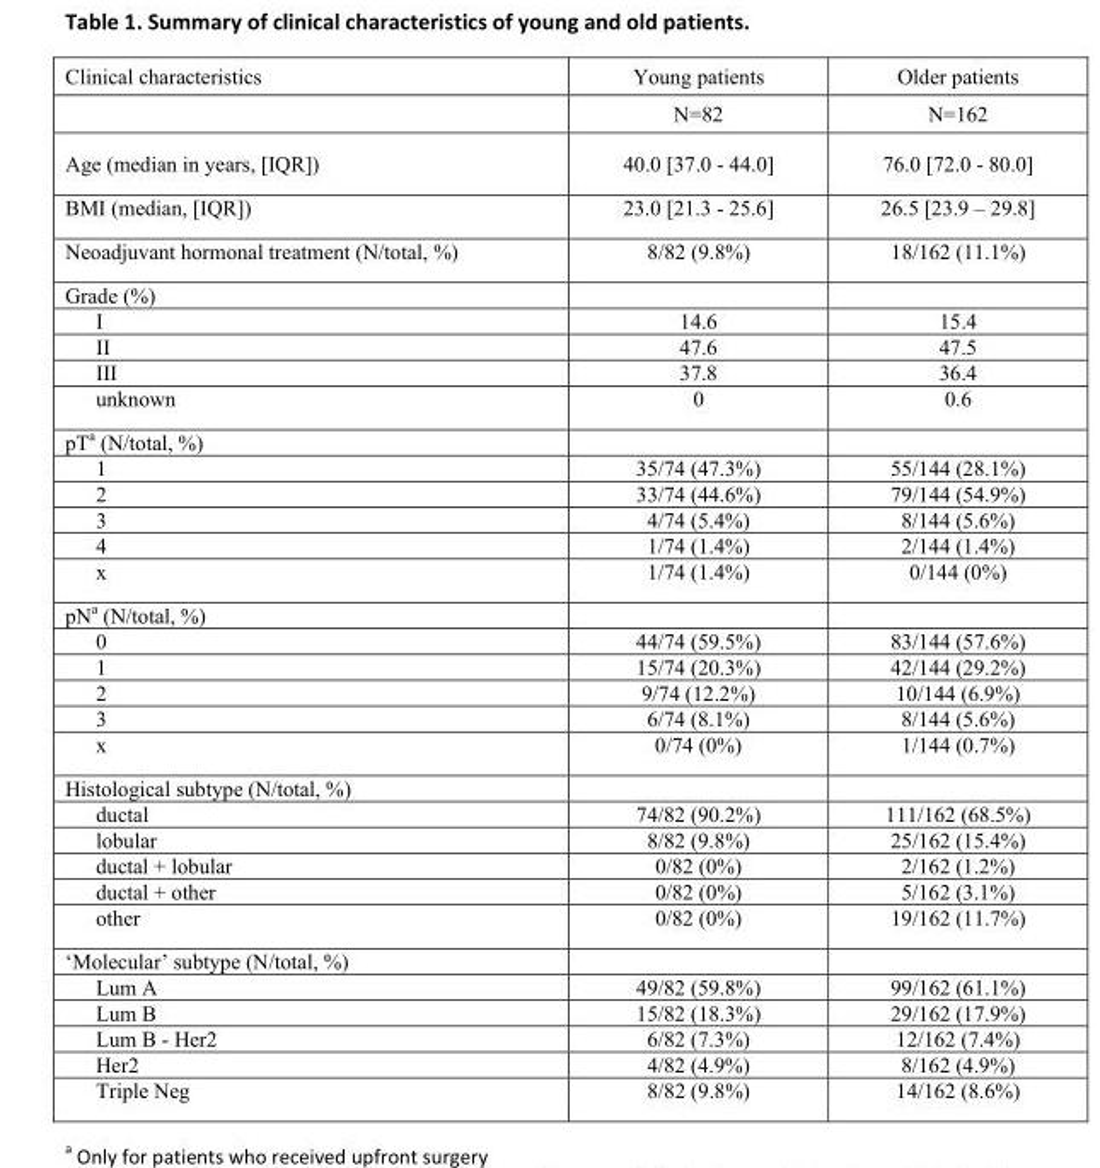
<table><thead><tr><td>Clinical characteristics</td><td>Young patients</td><td>Older patients</td></tr></thead><tbody><tr><td></td><td>N=82</td><td>N=162</td></tr><tr><td>Age (median in years, [IQR])</td><td>40.0 [37.0 - 44.0]</td><td>76.0 [72.0 - 80.0]</td></tr><tr><td>BMI (median, [IQR])</td><td>23.0 [21.3 - 25.6]</td><td>26.5 [23.9 – 29.8]</td></tr><tr><td>Neoadjuvant hormonal treatment (N/total, %)</td><td>8/82 (9.8%)</td><td>18/162 (11.1%)</td></tr><tr><td colspan="3">Grade (%)</td></tr><tr><td>I</td><td>14.6</td><td>15.4</td></tr><tr><td>II</td><td>47.6</td><td>47.5</td></tr><tr><td>III</td><td>37.8</td><td>36.4</td></tr><tr><td>unknown</td><td>0</td><td>0.6</td></tr><tr><td colspan="3">pT<sup>a</sup> (N/total, %)</td></tr><tr><td>1</td><td>35/74 (47.3%)</td><td>55/144 (28.1%)</td></tr><tr><td>2</td><td>33/74 (44.6%)</td><td>79/144 (54.9%)</td></tr><tr><td>3</td><td>4/74 (5.4%)</td><td>8/144 (5.6%)</td></tr><tr><td>4</td><td>1/74 (1.4%)</td><td>2/144 (1.4%)</td></tr><tr><td>x</td><td>1/74 (1.4%)</td><td>0/144 (0%)</td></tr><tr><td colspan="3">pN<sup>a</sup> (N/total, %)</td></tr><tr><td>0</td><td>44/74 (59.5%)</td><td>83/144 (57.6%)</td></tr><tr><td>1</td><td>15/74 (20.3%)</td><td>42/144 (29.2%)</td></tr><tr><td>2</td><td>9/74 (12.2%)</td><td>10/144 (6.9%)</td></tr><tr><td>3</td><td>6/74 (8.1%)</td><td>8/144 (5.6%)</td></tr><tr><td>x</td><td>0/74 (0%)</td><td>1/144 (0.7%)</td></tr><tr><td colspan="3">Histological subtype (N/total, %)</td></tr><tr><td>ductal</td><td>74/82 (90.2%)</td><td>111/162 (68.5%)</td></tr><tr><td>lobular</td><td>8/82 (9.8%)</td><td>25/162 (15.4%)</td></tr><tr><td>ductal + lobular</td><td>0/82 (0%)</td><td>2/162 (1.2%)</td></tr><tr><td>ductal + other</td><td>0/82 (0%)</td><td>5/162 (3.1%)</td></tr><tr><td>other</td><td>0/82 (0%)</td><td>19/162 (11.7%)</td></tr><tr><td colspan="3">‘Molecular’ subtype (N/total, %)</td></tr><tr><td>Lum A</td><td>49/82 (59.8%)</td><td>99/162 (61.1%)</td></tr><tr><td>Lum B</td><td>15/82 (18.3%)</td><td>29/162 (17.9%)</td></tr><tr><td>Lum B - Her2</td><td>6/82 (7.3%)</td><td>12/162 (7.4%)</td></tr><tr><td>Her2</td><td>4/82 (4.9%)</td><td>8/162 (4.9%)</td></tr><tr><td>Triple Neg</td><td>8/82 (9.8%)</td><td>14/162 (8.6%)</td></tr></tbody></table>